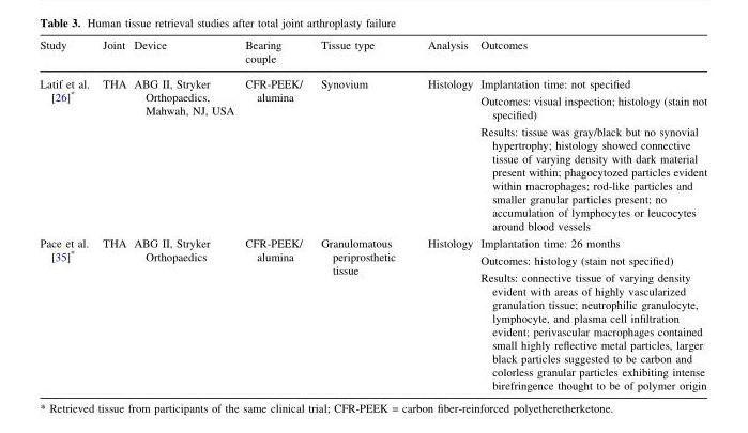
<table><thead><tr><td>Study</td><td>Joint</td><td>Device</td><td>Bearing couple</td><td>Tissue type</td><td>Analysis</td><td>Outcomes</td></tr></thead><tbody><tr><td>Latif et al. [26]*</td><td>THA</td><td>ABG II, Stryker Orthopaedics, Mahwah, NJ, USA</td><td>CFR-PEEK/ alumina</td><td>Synovium</td><td>Histology</td><td>Implantation time: not specified Outcomes: visual inspection; histology (stain not specified) Results: tissue was gray/black but no synovial hypertrophy; histology showed connective tissue of varying density with dark material present within; phagocytozed particles evident within macrophages; rod-like particles and smaller granular particles present; no accumulation of lymphocytes or leucocytes around blood vessels</td></tr><tr><td>Pace et al. [35]*</td><td>THA</td><td>ABG II, Stryker Orthopaedics</td><td>CFR-PEEK/ alumina</td><td>Granulomatous periprosthetic tissue</td><td>Histology</td><td>Implantation time: 26 months Outcomes: histology (stain not specified) Results: connective tissue of varying density evident with areas of highly vascularized granulation tissue; neutrophilic granulocyte, lymphocyte, and plasma cell infiltration evident; perivascular macrophages contained small highly reflective metal particles, larger black particles suggested to be carbon and colorless granular particles exhibiting intense birefringence thought to be of polymer origin</td></tr></tbody></table>